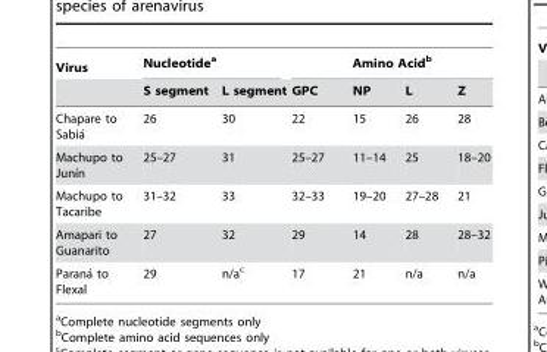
<table><thead><tr><td rowspan="2">Virus</td><td colspan="2">Nucleotide<sup>a</sup></td><td colspan="4">Amino Acid<sup>b</sup></td></tr><tr><td>S segment</td><td>L segment</td><td>GPC</td><td>NP</td><td>L</td><td>Z</td></tr></thead><tbody><tr><td>Chapare to Sabia´</td><td>26</td><td>30</td><td>22</td><td>15</td><td>26</td><td>28</td></tr><tr><td>Machupo to Junı´n</td><td>25–27</td><td>31</td><td>25–27</td><td>11–14</td><td>25</td><td>18–20</td></tr><tr><td>Machupo to Tacaribe</td><td>31–32</td><td>33</td><td>32–33</td><td>19–20</td><td>27–28</td><td>21</td></tr><tr><td>Amapari to Guanarito</td><td>27</td><td>32</td><td>29</td><td>14</td><td>28</td><td>28–32</td></tr><tr><td>Parana´ to Flexal</td><td>29</td><td>n/a<sup>c</sup></td><td>17</td><td>21</td><td>n/a</td><td>n/a</td></tr></tbody></table>